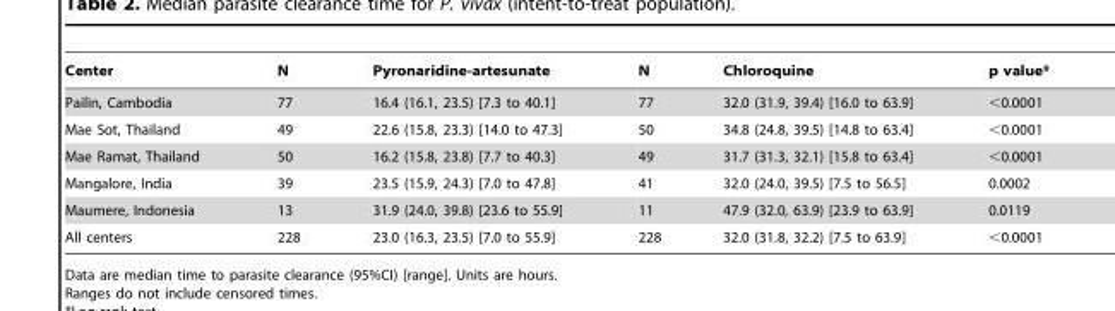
<table><thead><tr><td>Center</td><td>N</td><td>Pyronaridine-artesunate</td><td>N</td><td>Chloroquine</td><td>p value*</td></tr></thead><tbody><tr><td>Pailin, Cambodia</td><td>77</td><td>16.4 (16.1, 23.5) [7.3 to 40.1]</td><td>77</td><td>32.0 (31.9, 39.4) [16.0 to 63.9]</td><td>&lt;0.0001</td></tr><tr><td>Mae Sot, Thailand</td><td>49</td><td>22.6 (15.8, 23.3) [14.0 to 47.3]</td><td>50</td><td>34.8 (24.8, 39.5) [14.8 to 63.4]</td><td>&lt;0.0001</td></tr><tr><td>Mae Ramat, Thailand</td><td>50</td><td>16.2 (15.8, 23.8) [7.7 to 40.3]</td><td>49</td><td>31.7 (31.3, 32.1) [15.8 to 63.4]</td><td>&lt;0.0001</td></tr><tr><td>Mangalore, India</td><td>39</td><td>23.5 (15.9, 24.3) [7.0 to 47.8]</td><td>41</td><td>32.0 (24.0, 39.5) [7.5 to 56.5]</td><td>0.0002</td></tr><tr><td>Maumere, Indonesia</td><td>13</td><td>31.9 (24.0, 39.8) [23.6 to 55.9]</td><td>11</td><td>47.9 (32.0, 63.9) [23.9 to 63.9]</td><td>0.0119</td></tr><tr><td>All centers</td><td>228</td><td>23.0 (16.3, 23.5) [7.0 to 55.9]</td><td>228</td><td>32.0 (31.8, 32.2) [7.5 to 63.9]</td><td>&lt;0.0001</td></tr></tbody></table>